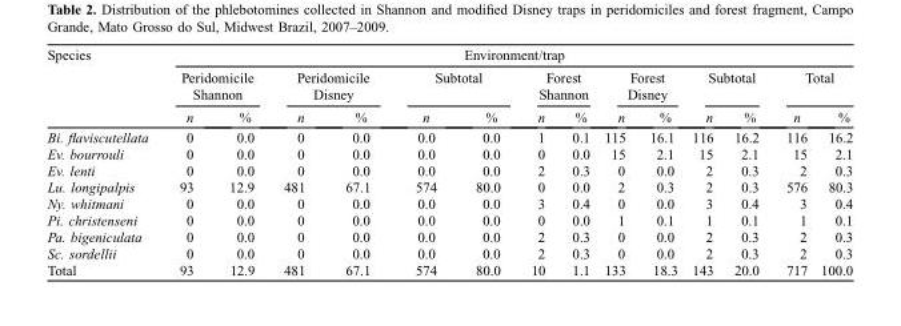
<table><thead><tr><td rowspan="3">Species</td><td colspan="14">Environment/trap</td></tr><tr><td colspan="2">Peridomicile Shannon</td><td colspan="2">Peridomicile Disney</td><td colspan="2">Subtotal</td><td colspan="2">Forest Shannon</td><td colspan="2">Forest Disney</td><td colspan="2">Subtotal</td><td colspan="2">Total</td></tr><tr><td>n</td><td>%</td><td>n</td><td>%</td><td>n</td><td>%</td><td>n</td><td>%</td><td>n</td><td>%</td><td>n</td><td>%</td><td>n</td><td>%</td></tr></thead><tbody><tr><td>Bi. flaviscutellata</td><td>0</td><td>0.0</td><td>0</td><td>0.0</td><td>0.0</td><td>0.0</td><td>1</td><td>0.1</td><td>115</td><td>16.1</td><td>116</td><td>16.2</td><td>116</td><td>16.2</td></tr><tr><td>Ev. bourrouli</td><td>0</td><td>0.0</td><td>0</td><td>0.0</td><td>0.0</td><td>0.0</td><td>0</td><td>0.0</td><td>15</td><td>2.1</td><td>15</td><td>2.1</td><td>15</td><td>2.1</td></tr><tr><td>Ev. lenti</td><td>0</td><td>0.0</td><td>0</td><td>0.0</td><td>0.0</td><td>0.0</td><td>2</td><td>0.3</td><td>0</td><td>0.0</td><td>2</td><td>0.3</td><td>2</td><td>0.3</td></tr><tr><td>Lu. longipalpis</td><td>93</td><td>12.9</td><td>481</td><td>67.1</td><td>574</td><td>80.0</td><td>0</td><td>0.0</td><td>2</td><td>0.3</td><td>2</td><td>0.3</td><td>576</td><td>80.3</td></tr><tr><td>Ny. whitmani</td><td>0</td><td>0.0</td><td>0</td><td>0.0</td><td>0.0</td><td>0.0</td><td>3</td><td>0.4</td><td>0</td><td>0.0</td><td>3</td><td>0.4</td><td>3</td><td>0.4</td></tr><tr><td>Pi. christenseni</td><td>0</td><td>0.0</td><td>0</td><td>0.0</td><td>0.0</td><td>0.0</td><td>0</td><td>0.0</td><td>1</td><td>0.1</td><td>1</td><td>0.1</td><td>1</td><td>0.1</td></tr><tr><td>Pa. bigeniculata</td><td>0</td><td>0.0</td><td>0</td><td>0.0</td><td>0.0</td><td>0.0</td><td>2</td><td>0.3</td><td>0</td><td>0.0</td><td>2</td><td>0.3</td><td>2</td><td>0.3</td></tr><tr><td>Sc. sordellii</td><td>0</td><td>0.0</td><td>0</td><td>0.0</td><td>0.0</td><td>0.0</td><td>2</td><td>0.3</td><td>0</td><td>0.0</td><td>2</td><td>0.3</td><td>2</td><td>0.3</td></tr><tr><td>Total</td><td>93</td><td>12.9</td><td>481</td><td>67.1</td><td>574</td><td>80.0</td><td>10</td><td>1.1</td><td>133</td><td>18.3</td><td>143</td><td>20.0</td><td>717</td><td>100.0</td></tr></tbody></table>